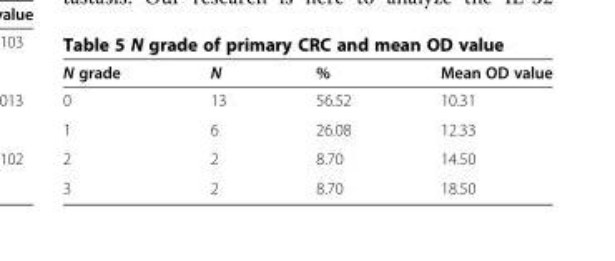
<table><thead><tr><td>N grade</td><td>N</td><td>%</td><td>Mean OD value</td></tr></thead><tbody><tr><td>0</td><td>13</td><td>56.52</td><td>10.31</td></tr><tr><td>1</td><td>6</td><td>26.08</td><td>12.33</td></tr><tr><td>2</td><td>2</td><td>8.70</td><td>14.50</td></tr><tr><td>3</td><td>2</td><td>8.70</td><td>18.50</td></tr></tbody></table>